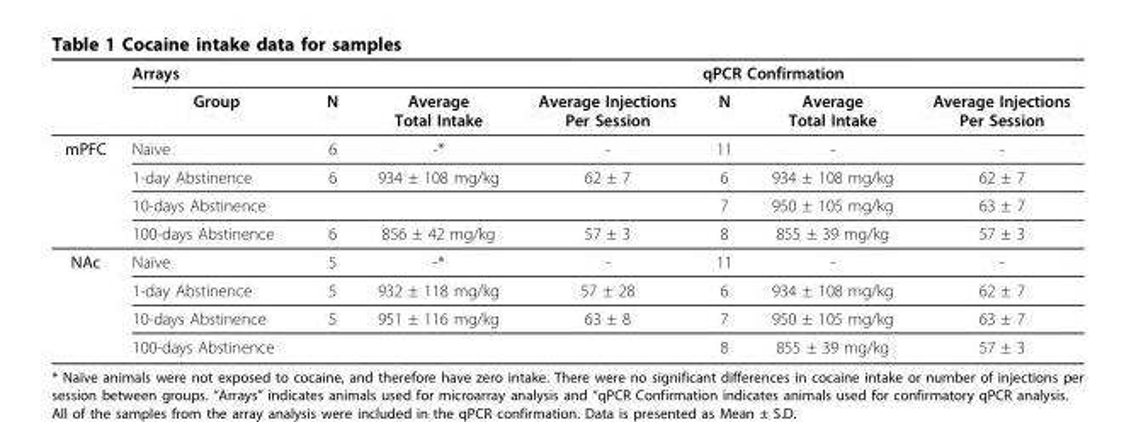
<table><thead><tr><td rowspan="2"></td><td colspan="4">Arrays</td><td colspan="3">qPCR Confirmation</td></tr><tr><td>Group</td><td>N</td><td>Average Total Intake</td><td>Average Injections Per Session</td><td>N</td><td>Average Total Intake</td><td>Average Injections Per Session</td></tr></thead><tbody><tr><td rowspan="4">mPFC</td><td>Naïve</td><td>6</td><td>-*</td><td>-</td><td>11</td><td>-</td><td>-</td></tr><tr><td>1-day Abstinence</td><td>6</td><td>934 ± 108 mg/kg</td><td>62 ± 7</td><td>6</td><td>934 ± 108 mg/kg</td><td>62 ± 7</td></tr><tr><td>10-days Abstinence</td><td></td><td></td><td></td><td>7</td><td>950 ± 105 mg/kg</td><td>63 ± 7</td></tr><tr><td>100-days Abstinence</td><td>6</td><td>856 ± 42 mg/kg</td><td>57 ± 3</td><td>8</td><td>855 ± 39 mg/kg</td><td>57 ± 3</td></tr><tr><td rowspan="4">NAc</td><td>Naïve</td><td>5</td><td>-*</td><td>-</td><td>11</td><td>-</td><td>-</td></tr><tr><td>1-day Abstinence</td><td>5</td><td>932 ± 118 mg/kg</td><td>57 ± 28</td><td>6</td><td>934 ± 108 mg/kg</td><td>62 ± 7</td></tr><tr><td>10-days Abstinence</td><td>5</td><td>951 ± 116 mg/kg</td><td>63 ± 8</td><td>7</td><td>950 ± 105 mg/kg</td><td>63 ± 7</td></tr><tr><td>100-days Abstinence</td><td></td><td></td><td></td><td>8</td><td>855 ± 39 mg/kg</td><td>57 ± 3</td></tr></tbody></table>